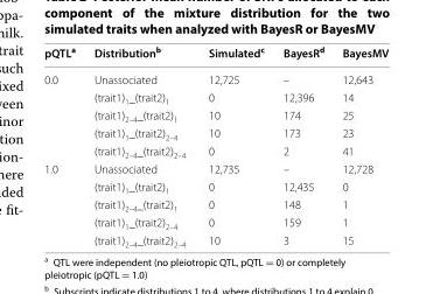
<table><thead><tr><td>pQTL<sup>a</sup></td><td>Distribution<sup>b</sup></td><td>Simulated<sup>c</sup></td><td>BayesR<sup>d</sup></td><td>BayesMV</td></tr></thead><tbody><tr><td rowspan="5">0.0</td><td>Unassociated</td><td>12,725</td><td>–</td><td>12,643</td></tr><tr><td>(trait1)1_(trait2)1</td><td>0</td><td>12,396</td><td>14</td></tr><tr><td>(trait1)2–4_(trait2)1</td><td>10</td><td>174</td><td>25</td></tr><tr><td>(trait1)1_(trait2)2–4</td><td>10</td><td>173</td><td>23</td></tr><tr><td>(trait1)2–4_(trait2)2–4</td><td>0</td><td>2</td><td>41</td></tr><tr><td rowspan="5">1.0</td><td>Unassociated</td><td>12,735</td><td>–</td><td>12,728</td></tr><tr><td>(trait1)1_(trait2)1</td><td>0</td><td>12,435</td><td>0</td></tr><tr><td>(trait1)2–4_(trait2)1</td><td>0</td><td>148</td><td>1</td></tr><tr><td>(trait1)1_(trait2)2–4</td><td>0</td><td>159</td><td>1</td></tr><tr><td>(trait1)2–4_(trait2)2–4</td><td>10</td><td>3</td><td>15</td></tr></tbody></table>